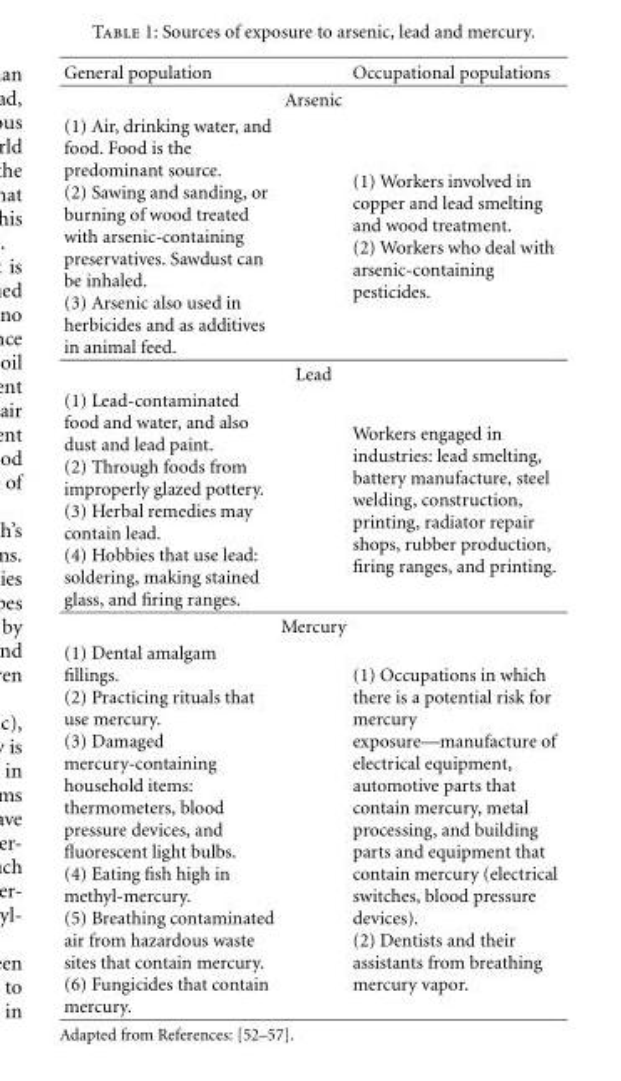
<table><thead><tr><td>General population</td><td>Occupational populations</td></tr></thead><tbody><tr><td colspan="2">Arsenic</td></tr><tr><td>(1) Air, drinking water, and food. Food is the predominant source. (2) Sawing and sanding, or burning of wood treated with arsenic-containing preservatives. Sawdust can be inhaled. (3) Arsenic also used in herbicides and as additives in animal feed.</td><td>(1) Workers involved in copper and lead smelting and wood treatment. (2) Workers who deal with arsenic-containing pesticides.</td></tr><tr><td colspan="2">Lead</td></tr><tr><td>(1) Lead-contaminated food and water, and also dust and lead paint. (2) Through foods from improperly glazed pottery. (3) Herbal remedies may contain lead. (4) Hobbies that use lead: soldering, making stained glass, and firing ranges.</td><td>Workers engaged in industries: lead smelting, battery manufacture, steel welding, construction, printing, radiator repair shops, rubber production, firing ranges, and printing.</td></tr><tr><td colspan="2">Mercury</td></tr><tr><td>(1) Dental amalgam fillings. (2) Practicing rituals that use mercury. (3) Damaged mercury-containing household items: thermometers, blood pressure devices, and fluorescent light bulbs. (4) Eating fish high in methyl-mercury. (5) Breathing contaminated air from hazardous waste sites that contain mercury. (6) Fungicides that contain mercury.</td><td>(1) Occupations in which there is a potential risk for mercury exposure—manufacture of electrical equipment, automotive parts that contain mercury, metal processing, and building parts and equipment that contain mercury (electrical switches, blood pressure devices). (2) Dentists and their assistants from breathing mercury vapor.</td></tr></tbody></table>